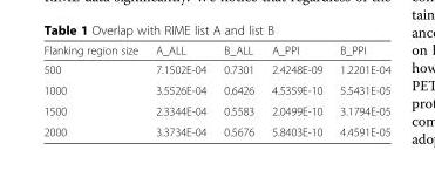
<table><thead><tr><td>Flanking region size</td><td>A_ALL</td><td>B_ALL</td><td>A_PPI</td><td>B_PPI</td></tr></thead><tbody><tr><td>500</td><td>7.1502E-04</td><td>0.7301</td><td>2.4248E-09</td><td>1.2201E-04</td></tr><tr><td>1000</td><td>3.5526E-04</td><td>0.6426</td><td>4.5359E-10</td><td>5.5431E-05</td></tr><tr><td>1500</td><td>2.3344E-04</td><td>0.5583</td><td>2.0499E-10</td><td>3.1794E-05</td></tr><tr><td>2000</td><td>3.3734E-04</td><td>0.5676</td><td>5.8403E-10</td><td>4.4591E-05</td></tr></tbody></table>